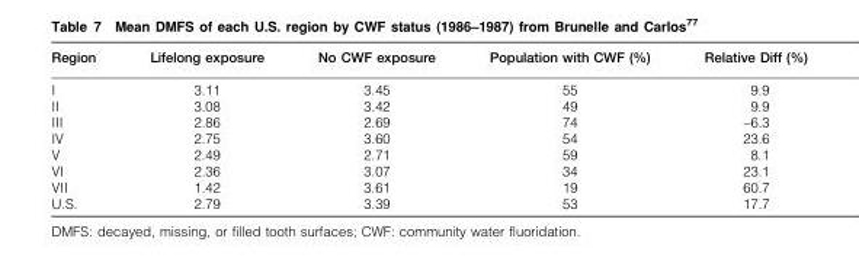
<table><thead><tr><td>Region</td><td>Lifelong exposure</td><td>No CWF exposure</td><td>Population with CWF (%)</td><td>Relative Diff (%)</td></tr></thead><tbody><tr><td>I</td><td>3.11</td><td>3.45</td><td>55</td><td>9.9</td></tr><tr><td>II</td><td>3.08</td><td>3.42</td><td>49</td><td>9.9</td></tr><tr><td>III</td><td>2.86</td><td>2.69</td><td>74</td><td>–6.3</td></tr><tr><td>IV</td><td>2.75</td><td>3.60</td><td>54</td><td>23.6</td></tr><tr><td>V</td><td>2.49</td><td>2.71</td><td>59</td><td>8.1</td></tr><tr><td>VI</td><td>2.36</td><td>3.07</td><td>34</td><td>23.1</td></tr><tr><td>VII</td><td>1.42</td><td>3.61</td><td>19</td><td>60.7</td></tr><tr><td>U.S.</td><td>2.79</td><td>3.39</td><td>53</td><td>17.7</td></tr></tbody></table>